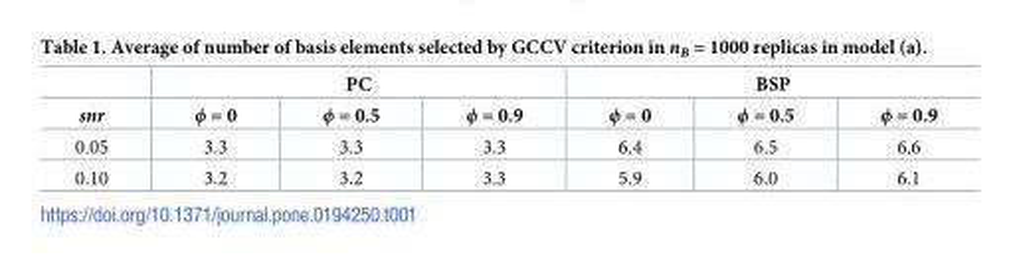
<table><thead><tr><td rowspan="2">snr</td><td colspan="3">PC</td><td colspan="3">BSP</td></tr><tr><td>ϕ = 0</td><td>ϕ = 0.5</td><td>ϕ = 0.9</td><td>ϕ = 0</td><td>ϕ = 0.5</td><td>ϕ = 0.9</td></tr></thead><tbody><tr><td>0.05</td><td>3.3</td><td>3.3</td><td>3.3</td><td>6.4</td><td>6.5</td><td>6.6</td></tr><tr><td>0.10</td><td>3.2</td><td>3.2</td><td>3.3</td><td>5.9</td><td>6.0</td><td>6.1</td></tr></tbody></table>